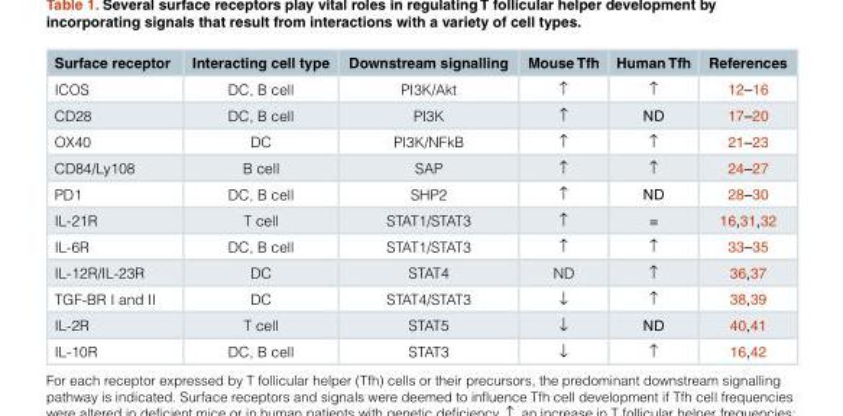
<table><thead><tr><td>Surface receptor</td><td>Interacting cell type</td><td>Downstream signalling</td><td>Mouse Tfh</td><td>Human Tfh</td><td>References</td></tr></thead><tbody><tr><td>ICOS</td><td>DC, B cell</td><td>PI3K/Akt</td><td>↑</td><td>↑</td><td>12–16</td></tr><tr><td>CD28</td><td>DC, B cell</td><td>PI3K</td><td>↑</td><td>ND</td><td>17–20</td></tr><tr><td>OX40</td><td>DC</td><td>PI3K/NFkB</td><td>↑</td><td>↑</td><td>21–23</td></tr><tr><td>CD84/Ly108</td><td>B cell</td><td>SAP</td><td>↑</td><td>↑</td><td>24–27</td></tr><tr><td>PD1</td><td>DC, B cell</td><td>SHP2</td><td>↑</td><td>ND</td><td>28–30</td></tr><tr><td>IL-21R</td><td>T cell</td><td>STAT1/STAT3</td><td>↑</td><td>=</td><td>16,31,32</td></tr><tr><td>IL-6R</td><td>DC, B cell</td><td>STAT1/STAT3</td><td>↑</td><td>↑</td><td>33–35</td></tr><tr><td>IL-12R/IL-23R</td><td>DC</td><td>STAT4</td><td>ND</td><td>↑</td><td>36,37</td></tr><tr><td>TGF-BR I and II</td><td>DC</td><td>STAT4/STAT3</td><td>↓</td><td>↑</td><td>38,39</td></tr><tr><td>IL-2R</td><td>T cell</td><td>STAT5</td><td>↓</td><td>ND</td><td>40,41</td></tr><tr><td>IL-10R</td><td>DC, B cell</td><td>STAT3</td><td>↓</td><td>↑</td><td>16,42</td></tr></tbody></table>